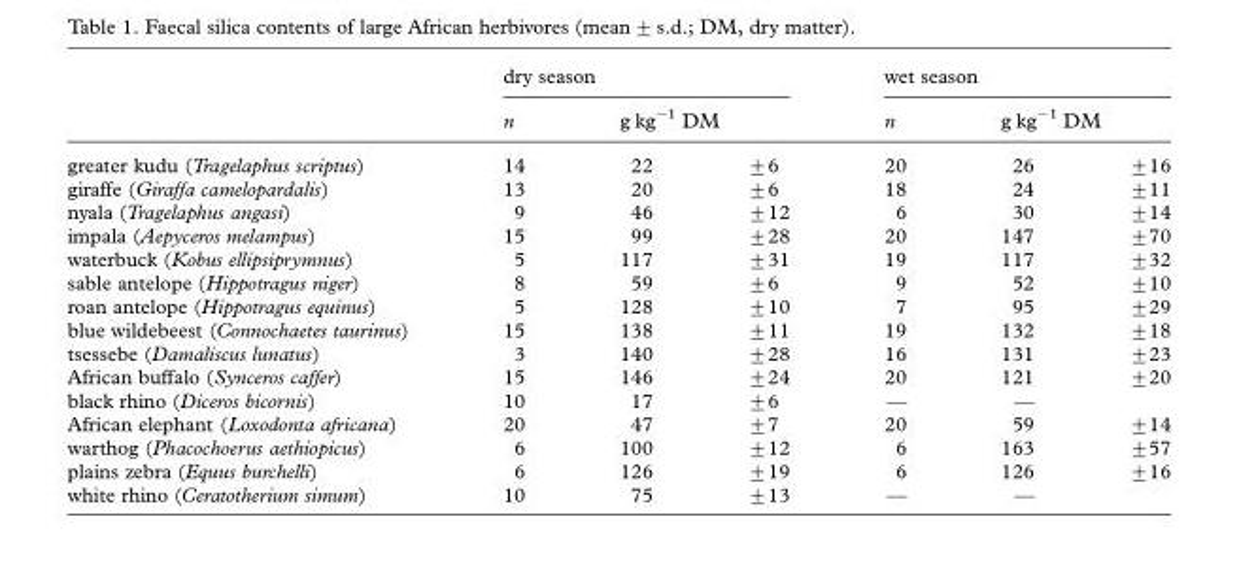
<table><thead><tr><td rowspan="3">greater kudu (Tragelaphus scriptus)</td><td colspan="3">dry season</td><td colspan="3">wet season</td></tr><tr><td rowspan="2">n 14</td><td colspan="2">g kg<sup>−1</sup> DM</td><td rowspan="2">n 20</td><td colspan="2">g kg<sup>−1</sup> DM</td></tr><tr><td>22</td><td>+6</td><td>26</td><td>+16</td></tr></thead><tbody><tr><td>giraffe (Giraffa camelopardalis)</td><td>13</td><td>20</td><td>+6</td><td>18</td><td>24</td><td>+11</td></tr><tr><td>nyala (Tragelaphus angasi)</td><td>9</td><td>46</td><td>+12</td><td>6</td><td>30</td><td>+14</td></tr><tr><td>impala (Aepyceros melampus)</td><td>15</td><td>99</td><td>+28</td><td>20</td><td>147</td><td>+70</td></tr><tr><td>waterbuck (Kobus ellipsiprymnus)</td><td>5</td><td>117</td><td>+31</td><td>19</td><td>117</td><td>+32</td></tr><tr><td>sable antelope (Hippotragus niger)</td><td>8</td><td>59</td><td>+6</td><td>9</td><td>52</td><td>+10</td></tr><tr><td>roan antelope (Hippotragus equinus)</td><td>5</td><td>128</td><td>+10</td><td>7</td><td>95</td><td>+29</td></tr><tr><td>blue wildebeest (Connochaetes taurinus)</td><td>15</td><td>138</td><td>+11</td><td>19</td><td>132</td><td>+18</td></tr><tr><td>tsessebe (Damaliscus lunatus)</td><td>3</td><td>140</td><td>+28</td><td>16</td><td>131</td><td>+23</td></tr><tr><td>African buffalo (Synceros caffer)</td><td>15</td><td>146</td><td>+24</td><td>20</td><td>121</td><td>+20</td></tr><tr><td>black rhino (Diceros bicornis)</td><td>10</td><td>17</td><td>+6</td><td>—</td><td>—</td><td></td></tr><tr><td>African elephant (Loxodonta africana)</td><td>20</td><td>47</td><td>+7</td><td>20</td><td>59</td><td>+14</td></tr><tr><td>warthog (Phacochoerus aethiopicus)</td><td>6</td><td>100</td><td>+12</td><td>6</td><td>163</td><td>+57</td></tr><tr><td>plains zebra (Equus burchelli)</td><td>6</td><td>126</td><td>+19</td><td>6</td><td>126</td><td>+16</td></tr><tr><td>white rhino (Ceratotherium simum)</td><td>10</td><td>75</td><td>+13</td><td>—</td><td>—</td><td></td></tr></tbody></table>